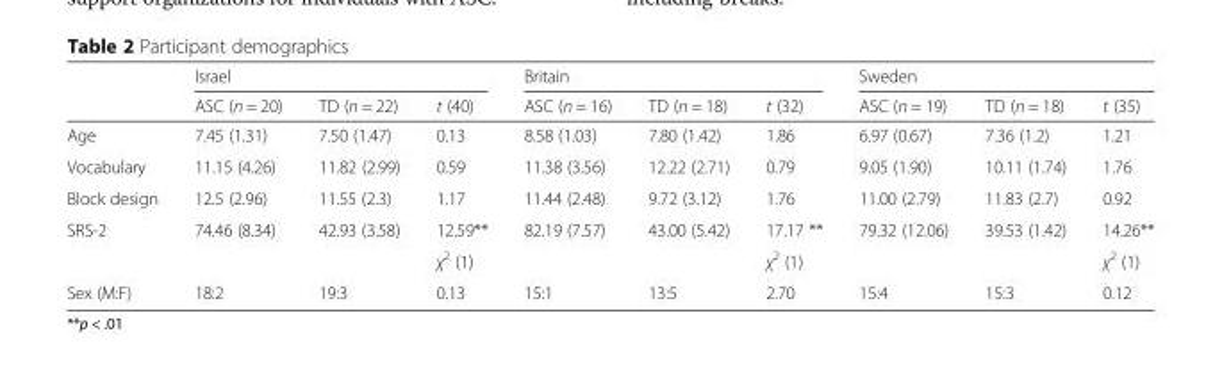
<table><thead><tr><td rowspan="2"></td><td colspan="3">Israel</td><td colspan="3">Britain</td><td colspan="3">Sweden</td></tr><tr><td>ASC (n = 20)</td><td>TD (n = 22)</td><td>t (40)</td><td>ASC (n = 16)</td><td>TD (n = 18)</td><td>t (32)</td><td>ASC (n = 19)</td><td>TD (n = 18)</td><td>t (35)</td></tr></thead><tbody><tr><td>Age</td><td>7.45 (1.31)</td><td>7.50 (1.47)</td><td>0.13</td><td>8.58 (1.03)</td><td>7.80 (1.42)</td><td>1.86</td><td>6.97 (0.67)</td><td>7.36 (1.2)</td><td>1.21</td></tr><tr><td>Vocabulary</td><td>11.15 (4.26)</td><td>11.82 (2.99)</td><td>0.59</td><td>11.38 (3.56)</td><td>12.22 (2.71)</td><td>0.79</td><td>9.05 (1.90)</td><td>10.11 (1.74)</td><td>1.76</td></tr><tr><td>Block design</td><td>12.5 (2.96)</td><td>11.55 (2.3)</td><td>1.17</td><td>11.44 (2.48)</td><td>9.72 (3.12)</td><td>1.76</td><td>11.00 (2.79)</td><td>11.83 (2.7)</td><td>0.92</td></tr><tr><td rowspan="2">SRS-2</td><td>74.46 (8.34)</td><td>42.93 (3.58)</td><td>12.59**</td><td>82.19 (7.57)</td><td>43.00 (5.42)</td><td>17.17 **</td><td>79.32 (12.06)</td><td>39.53 (1.42)</td><td>14.26**</td></tr><tr><td></td><td></td><td>χ<sup>2</sup> (1)</td><td></td><td></td><td>χ<sup>2</sup> (1)</td><td></td><td></td><td>χ<sup>2</sup> (1)</td></tr><tr><td>Sex (M:F)</td><td>18:2</td><td>19:3</td><td>0.13</td><td>15:1</td><td>13:5</td><td>2.70</td><td>15:4</td><td>15:3</td><td>0.12</td></tr></tbody></table>